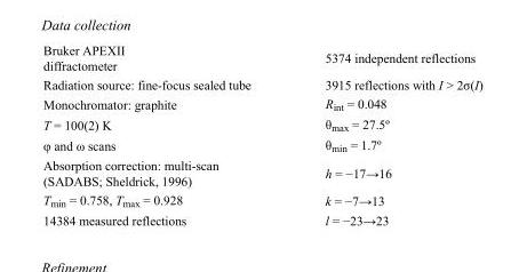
<table><tbody><tr><td>Bruker APEXII diffractometer</td><td>5374 independent reflections</td></tr><tr><td>Radiation source: fine-focus sealed tube</td><td>3915 reflections with I &gt; 2σ(I)</td></tr><tr><td>Monochromator: graphite</td><td>R<sub>int</sub> = 0.048</td></tr><tr><td>T = 100(2) K</td><td>θ<sub>max</sub> = 27.5º</td></tr><tr><td>φ and ω scans</td><td>θ<sub>min</sub> = 1.7º</td></tr><tr><td>Absorption correction: multi-scan (SADABS; Sheldrick, 1996)</td><td>h = −17→16</td></tr><tr><td>T<sub>min</sub> = 0.758, T<sub>max</sub> = 0.928</td><td>k = −7→13</td></tr><tr><td>14384 measured reflections</td><td>l = −23→23</td></tr></tbody></table>